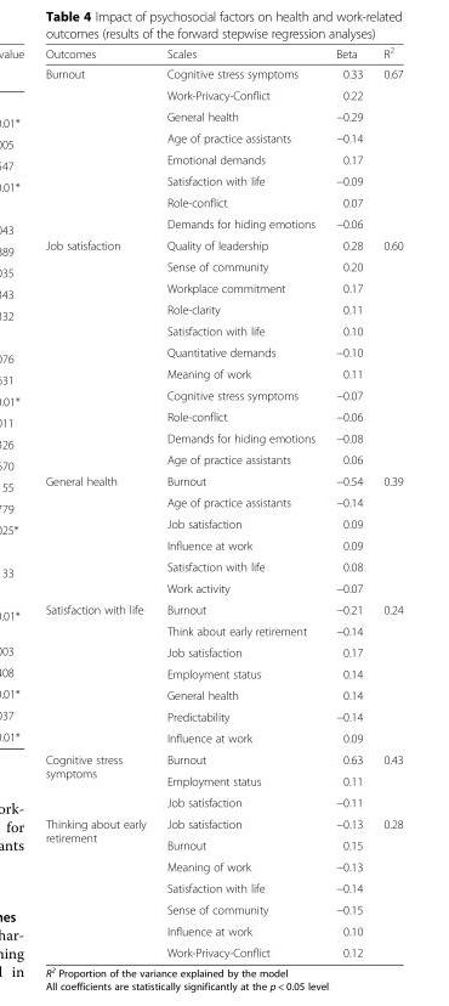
<table><thead><tr><td>Outcomes</td><td>Scales</td><td>Beta</td><td>R<sup>2</sup></td></tr></thead><tbody><tr><td rowspan="8">Burnout</td><td>Cognitive stress symptoms</td><td>0.33</td><td>0.67</td></tr><tr><td>Work-Privacy-Conflict</td><td>0.22</td><td></td></tr><tr><td>General health</td><td>−0.29</td><td></td></tr><tr><td>Age of practice assistants</td><td>−0.14</td><td></td></tr><tr><td>Emotional demands</td><td>0.17</td><td></td></tr><tr><td>Satisfaction with life</td><td>−0.09</td><td></td></tr><tr><td>Role-conflict</td><td>0.07</td><td></td></tr><tr><td>Demands for hiding emotions</td><td>−0.06</td><td></td></tr><tr><td rowspan="11">Job satisfaction</td><td>Quality of leadership</td><td>0.28</td><td rowspan="11">0.60</td></tr><tr><td>Sense of community</td><td>0.20</td></tr><tr><td>Workplace commitment</td><td>0.17</td></tr><tr><td>Role-clarity</td><td>0.11</td></tr><tr><td>Satisfaction with life</td><td>0.10</td></tr><tr><td>Quantitative demands</td><td>−0.10</td></tr><tr><td>Meaning of work</td><td>0.11</td></tr><tr><td>Cognitive stress symptoms</td><td>−0.07</td></tr><tr><td>Role-conflict</td><td>−0.06</td></tr><tr><td>Demands for hiding emotions</td><td>−0.08</td></tr><tr><td>Age of practice assistants</td><td>0.06</td></tr><tr><td rowspan="6">General health</td><td>Burnout</td><td>−0.54</td><td rowspan="6">0.39</td></tr><tr><td>Age of practice assistants</td><td>−0.14</td></tr><tr><td>Job satisfaction</td><td>0.09</td></tr><tr><td>Influence at work</td><td>0.09</td></tr><tr><td>Satisfaction with life</td><td>0.08</td></tr><tr><td>Work activity</td><td>−0.07</td></tr><tr><td rowspan="7">Satisfaction with life</td><td>Burnout</td><td>−0.21</td><td rowspan="7">0.24</td></tr><tr><td>Think about early retirement</td><td>−0.14</td></tr><tr><td>Job satisfaction</td><td>0.17</td></tr><tr><td>Employment status</td><td>0.14</td></tr><tr><td>General health</td><td>0.14</td></tr><tr><td>Predictability</td><td>−0.14</td></tr><tr><td>Influence at work</td><td>0.09</td></tr><tr><td rowspan="3">Cognitive stress symptoms</td><td>Burnout</td><td>0.63</td><td rowspan="3">0.43</td></tr><tr><td>Employment status</td><td>0.11</td></tr><tr><td>Job satisfaction</td><td>−0.11</td></tr><tr><td rowspan="7">Thinking about early retirement</td><td>Job satisfaction</td><td>−0.13</td><td rowspan="7">0.28</td></tr><tr><td>Burnout</td><td>0.15</td></tr><tr><td>Meaning of work</td><td>−0.13</td></tr><tr><td>Satisfaction with life</td><td>−0.14</td></tr><tr><td>Sense of community</td><td>−0.15</td></tr><tr><td>Influence at work</td><td>0.10</td></tr><tr><td>Work-Privacy-Conflict</td><td>0.12</td></tr></tbody></table>